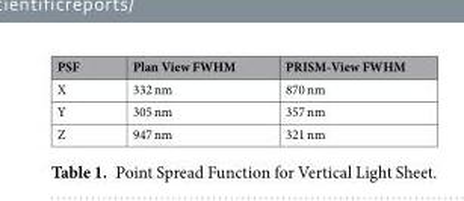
<table><thead><tr><td>PSF</td><td>Plan View FWHM</td><td>PRISM-View FWHM</td></tr></thead><tbody><tr><td>X</td><td>332 nm</td><td>870 nm</td></tr><tr><td>Y</td><td>305 nm</td><td>357 nm</td></tr><tr><td>Z</td><td>947 nm</td><td>321 nm</td></tr></tbody></table>